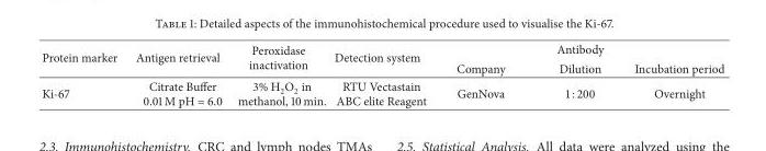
<table><thead><tr><td rowspan="2">Protein marker</td><td rowspan="2">Antigen retrieval</td><td rowspan="2">Peroxidase inactivation</td><td rowspan="2">Detection system</td><td colspan="3">Antibody</td></tr><tr><td>Company</td><td>Dilution</td><td>Incubation period</td></tr></thead><tbody><tr><td>Ki-67</td><td>Citrate Buffer 0.01 M pH = 6.0</td><td>3% H<sub>2</sub>O<sub>2</sub> in methanol, 10 min.</td><td>RTU Vectastain ABC elite Reagent</td><td>GenNova</td><td>1 : 200</td><td>Overnight</td></tr></tbody></table>